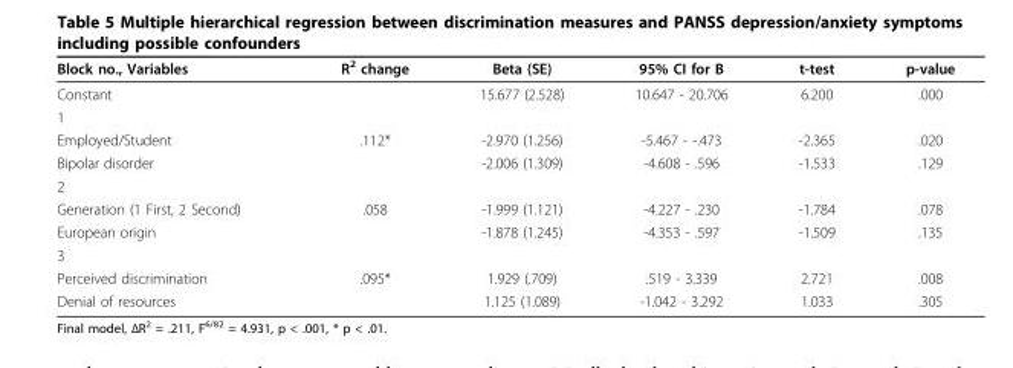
<table><thead><tr><td>Block no., Variables</td><td>R<sup>2</sup> change</td><td>Beta (SE)</td><td>95% CI for B</td><td>t-test</td><td>p-value</td></tr></thead><tbody><tr><td>Constant</td><td></td><td>15.677 (2.528)</td><td>10.647 - 20.706</td><td>6.200</td><td>.000</td></tr><tr><td colspan="6">1</td></tr><tr><td>Employed/Student</td><td>.112*</td><td>-2.970 (1.256)</td><td>-5.467 - -.473</td><td>-2.365</td><td>.020</td></tr><tr><td>Bipolar disorder</td><td></td><td>-2.006 (1.309)</td><td>-4.608 - .596</td><td>-1.533</td><td>.129</td></tr><tr><td colspan="6">2</td></tr><tr><td>Generation (1 First, 2 Second)</td><td>.058</td><td>-1.999 (1.121)</td><td>-4.227 - .230</td><td>-1.784</td><td>.078</td></tr><tr><td>European origin</td><td></td><td>-1.878 (1.245)</td><td>-4.353 - .597</td><td>-1.509</td><td>.135</td></tr><tr><td colspan="6">3</td></tr><tr><td>Perceived discrimination</td><td>.095*</td><td>1.929 (.709)</td><td>.519 - 3.339</td><td>2.721</td><td>.008</td></tr><tr><td>Denial of resources</td><td></td><td>1.125 (1.089)</td><td>-1.042 - 3.292</td><td>1.033</td><td>.305</td></tr></tbody></table>